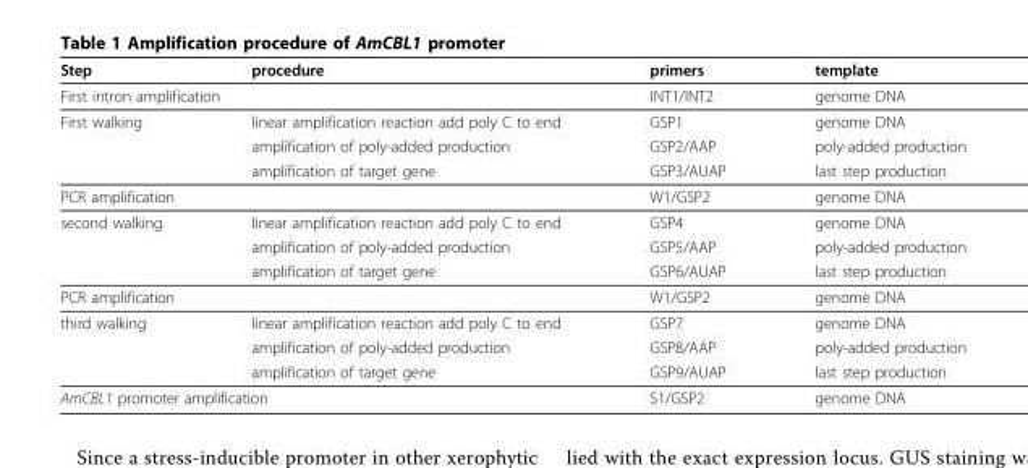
<table><thead><tr><td>Step</td><td>procedure</td><td>primers</td><td>template</td></tr></thead><tbody><tr><td colspan="2">First intron amplification</td><td>INT1/INT2</td><td>genome DNA</td></tr><tr><td rowspan="3">First walking</td><td>linear amplification reaction add poly C to end</td><td>GSP1</td><td>genome DNA</td></tr><tr><td>amplification of poly-added production</td><td>GSP2/AAP</td><td>poly-added production</td></tr><tr><td>amplification of target gene</td><td>GSP3/AUAP</td><td>last step production</td></tr><tr><td colspan="2">PCR amplification</td><td>W1/GSP2</td><td>genome DNA</td></tr><tr><td rowspan="3">second walking</td><td>linear amplification reaction add poly C to end</td><td>GSP4</td><td>genome DNA</td></tr><tr><td>amplification of poly-added production</td><td>GSP5/AAP</td><td>poly-added production</td></tr><tr><td>amplification of target gene</td><td>GSP6/AUAP</td><td>last step production</td></tr><tr><td colspan="2">PCR amplification</td><td>W1/GSP2</td><td>genome DNA</td></tr><tr><td rowspan="3">third walking</td><td>linear amplification reaction add poly C to end</td><td>GSP7</td><td>genome DNA</td></tr><tr><td>amplification of poly-added production</td><td>GSP8/AAP</td><td>poly-added production</td></tr><tr><td>amplification of target gene</td><td>GSP9/AUAP</td><td>last step production</td></tr><tr><td colspan="2">AmCBL1 promoter amplification</td><td>S1/GSP2</td><td>genome DNA</td></tr></tbody></table>